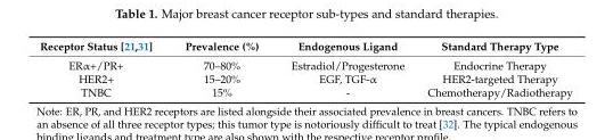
<table><thead><tr><td>Receptor Status [21,31]</td><td>Prevalence (%)</td><td>Endogenous Ligand</td><td>Standard Therapy Type</td></tr></thead><tbody><tr><td>ERα+/PR+</td><td>70–80%</td><td>Estradiol/Progesterone</td><td>Endocrine Therapy</td></tr><tr><td>HER2+</td><td>15–20%</td><td>EGF, TGF-α</td><td>HER2-targeted Therapy</td></tr><tr><td>TNBC</td><td>15%</td><td>-</td><td>Chemotherapy/Radiotherapy</td></tr></tbody></table>